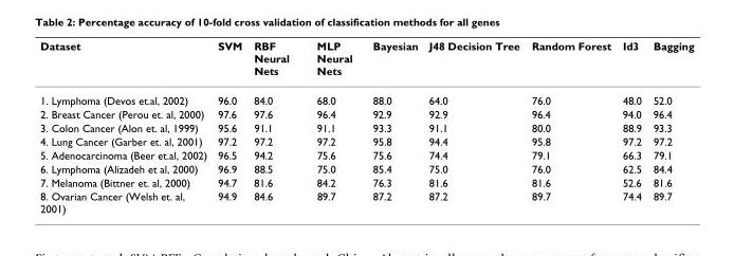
<table><thead><tr><td>Dataset</td><td>SVM</td><td>RBF Neural Nets</td><td>MLP Neural Nets</td><td>Bayesian</td><td>J48 Decision Tree</td><td>Random Forest</td><td>Id3</td><td>Bagging</td></tr></thead><tbody><tr><td>1. Lymphoma (Devos et.al, 2002)</td><td>96.0</td><td>84.0</td><td>68.0</td><td>88.0</td><td>64.0</td><td>76.0</td><td>48.0</td><td>52.0</td></tr><tr><td>2. Breast Cancer (Perou et. al, 2000)</td><td>97.6</td><td>97.6</td><td>96.4</td><td>92.9</td><td>92.9</td><td>96.4</td><td>94.0</td><td>96.4</td></tr><tr><td>3. Colon Cancer (Alon et. al, 1999)</td><td>95.6</td><td>91.1</td><td>91.1</td><td>93.3</td><td>91.1</td><td>80.0</td><td>88.9</td><td>93.3</td></tr><tr><td>4. Lung Cancer (Garber et. al, 2001)</td><td>97.2</td><td>97.2</td><td>97.2</td><td>95.8</td><td>94.4</td><td>95.8</td><td>97.2</td><td>97.2</td></tr><tr><td>5. Adenocarcinoma (Beer et.al, 2002)</td><td>96.5</td><td>94.2</td><td>75.6</td><td>75.6</td><td>74.4</td><td>79.1</td><td>66.3</td><td>79.1</td></tr><tr><td>6. Lymphoma (Alizadeh et al, 2000)</td><td>96.9</td><td>88.5</td><td>75.0</td><td>85.4</td><td>75.0</td><td>76.0</td><td>62.5</td><td>84.4</td></tr><tr><td>7. Melanoma (Bittner et. al, 2000)</td><td>94.7</td><td>81.6</td><td>84.2</td><td>76.3</td><td>81.6</td><td>81.6</td><td>52.6</td><td>81.6</td></tr><tr><td>8. Ovarian Cancer (Welsh et. al, 2001)</td><td>94.9</td><td>84.6</td><td>89.7</td><td>87.2</td><td>87.2</td><td>89.7</td><td>74.4</td><td>89.7</td></tr></tbody></table>